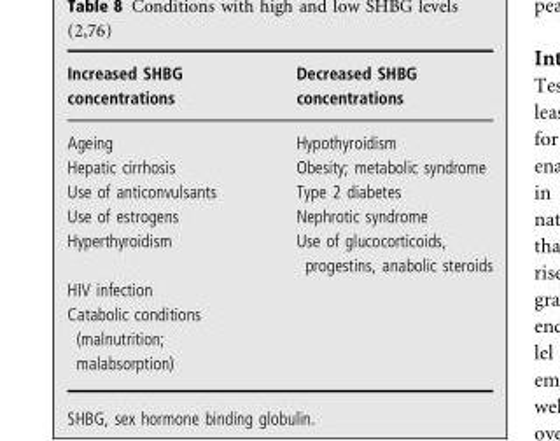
<table><thead><tr><td>Increased SHBG concentrations</td><td>Decreased SHBG concentrations</td></tr></thead><tbody><tr><td>Ageing</td><td>Hypothyroidism</td></tr><tr><td>Hepatic cirrhosis</td><td>Obesity; metabolic syndrome</td></tr><tr><td>Use of anticonvulsants</td><td>Type 2 diabetes</td></tr><tr><td>Use of estrogens</td><td>Nephrotic syndrome</td></tr><tr><td>Hyperthyroidism</td><td>Use of glucocorticoids, progestins, anabolic steroids</td></tr><tr><td colspan="2">HIV infection</td></tr><tr><td>Catabolic conditions (malnutrition; malabsorption)</td><td></td></tr></tbody></table>